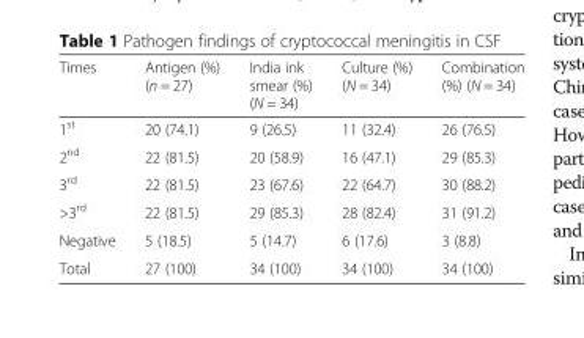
<table><thead><tr><td>Times</td><td>Antigen (%) (n = 27)</td><td>India ink smear (%) (N = 34)</td><td>Culture (%) (N = 34)</td><td>Combination (%) (N = 34)</td></tr></thead><tbody><tr><td>1<sup>st</sup></td><td>20 (74.1)</td><td>9 (26.5)</td><td>11 (32.4)</td><td>26 (76.5)</td></tr><tr><td>2<sup>nd</sup></td><td>22 (81.5)</td><td>20 (58.9)</td><td>16 (47.1)</td><td>29 (85.3)</td></tr><tr><td>3<sup>rd</sup></td><td>22 (81.5)</td><td>23 (67.6)</td><td>22 (64.7)</td><td>30 (88.2)</td></tr><tr><td>&gt;3<sup>rd</sup></td><td>22 (81.5)</td><td>29 (85.3)</td><td>28 (82.4)</td><td>31 (91.2)</td></tr><tr><td>Negative</td><td>5 (18.5)</td><td>5 (14.7)</td><td>6 (17.6)</td><td>3 (8.8)</td></tr><tr><td>Total</td><td>27 (100)</td><td>34 (100)</td><td>34 (100)</td><td>34 (100)</td></tr></tbody></table>